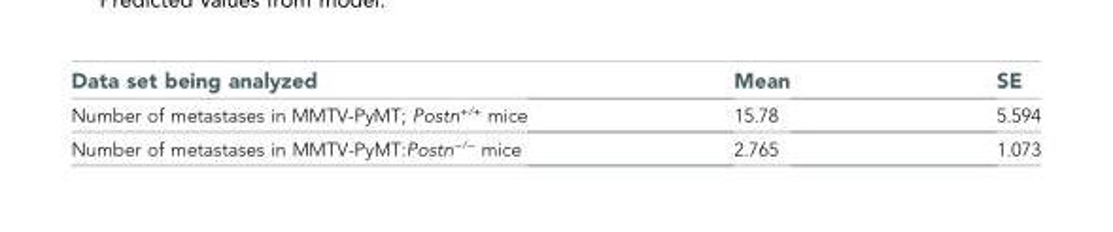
<table><thead><tr><td>Data set being analyzed</td><td>Mean</td><td>SE</td></tr></thead><tbody><tr><td>Number of metastases in MMTV-PyMT; Postn<sup>+/+</sup> mice</td><td>15.78</td><td>5.594</td></tr><tr><td>Number of metastases in MMTV-PyMT:Postn<sup>−/−</sup> mice</td><td>2.765</td><td>1.073</td></tr></tbody></table>